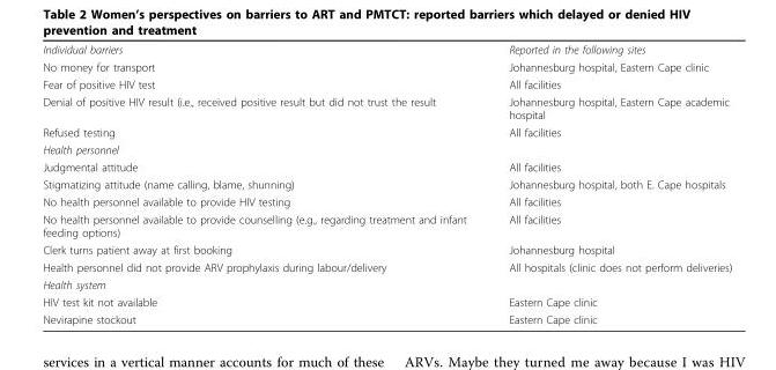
<table><tbody><tr><td>Individual barriers</td><td>Reported in the following sites</td></tr><tr><td>No money for transport</td><td>Johannesburg hospital, Eastern Cape clinic</td></tr><tr><td>Fear of positive HIV test</td><td>All facilities</td></tr><tr><td>Denial of positive HIV result (i.e., received positive result but did not trust the result</td><td>Johannesburg hospital, Eastern Cape academic hospital</td></tr><tr><td>Refused testing</td><td>All facilities</td></tr><tr><td colspan="2">Health personnel</td></tr><tr><td>Judgmental attitude</td><td>All facilities</td></tr><tr><td>Stigmatizing attitude (name calling, blame, shunning)</td><td>Johannesburg hospital, both E. Cape hospitals</td></tr><tr><td>No health personnel available to provide HIV testing</td><td>All facilities</td></tr><tr><td>No health personnel available to provide counselling (e.g., regarding treatment and infant feeding options)</td><td>All facilities</td></tr><tr><td>Clerk turns patient away at first booking</td><td>Johannesburg hospital</td></tr><tr><td>Health personnel did not provide ARV prophylaxis during labour/delivery</td><td>All hospitals (clinic does not perform deliveries)</td></tr><tr><td colspan="2">Health system</td></tr><tr><td>HIV test kit not available</td><td>Eastern Cape clinic</td></tr><tr><td>Nevirapine stockout</td><td>Eastern Cape clinic</td></tr></tbody></table>